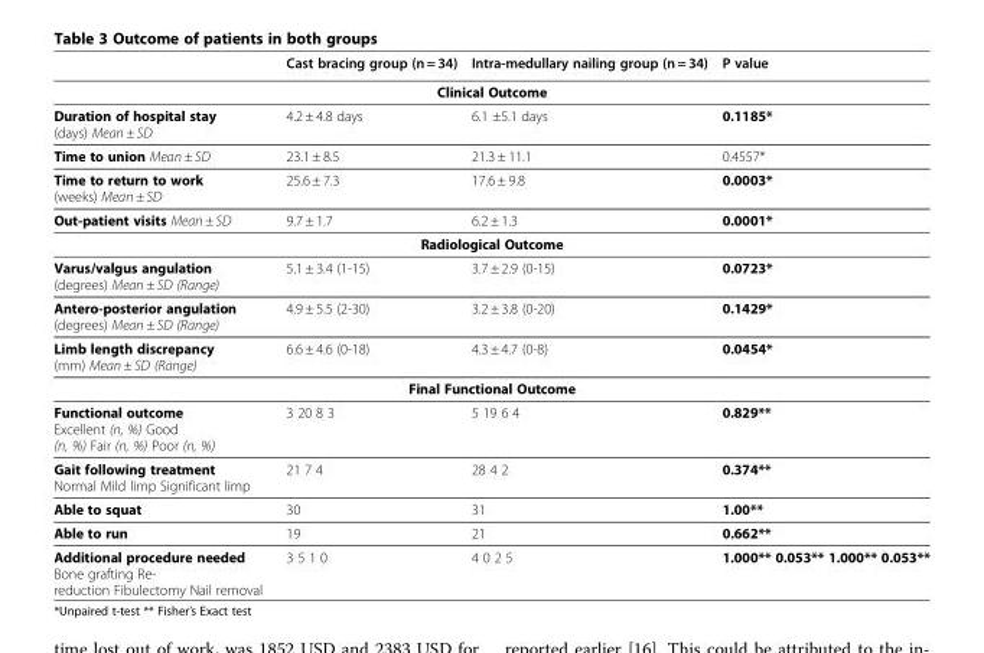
<table><thead><tr><td></td><td>Cast bracing group (n = 34)</td><td>Intra-medullary nailing group (n = 34)</td><td>P value</td></tr></thead><tbody><tr><td colspan="4">Clinical Outcome</td></tr><tr><td>Duration of hospital stay (days) Mean ± SD</td><td>4.2 ± 4.8 days</td><td>6.1 ±5.1 days</td><td>0.1185*</td></tr><tr><td>Time to union Mean ± SD</td><td>23.1 ± 8.5</td><td>21.3 ± 11.1</td><td>0.4557*</td></tr><tr><td>Time to return to work (weeks) Mean ± SD</td><td>25.6 ± 7.3</td><td>17.6 ± 9.8</td><td>0.0003*</td></tr><tr><td>Out-patient visits Mean ± SD</td><td>9.7 ± 1.7</td><td>6.2 ± 1.3</td><td>0.0001*</td></tr><tr><td colspan="4">Radiological Outcome</td></tr><tr><td>Varus/valgus angulation (degrees) Mean ± SD (Range)</td><td>5.1 ± 3.4 (1-15)</td><td>3.7 ± 2.9 (0-15)</td><td>0.0723*</td></tr><tr><td>Antero-posterior angulation (degrees) Mean ± SD (Range)</td><td>4.9 ± 5.5 (2-30)</td><td>3.2 ± 3.8 (0-20)</td><td>0.1429*</td></tr><tr><td>Limb length discrepancy (mm) Mean ± SD (Range)</td><td>6.6 ± 4.6 (0-18)</td><td>4.3 ± 4.7 (0-8)</td><td>0.0454*</td></tr><tr><td colspan="4">Final Functional Outcome</td></tr><tr><td>Functional outcome Excellent (n, %) Good (n, %) Fair (n, %) Poor (n, %)</td><td>3 20 8 3</td><td>5 19 6 4</td><td>0.829**</td></tr><tr><td>Gait following treatment Normal Mild limp Significant limp</td><td>21 7 4</td><td>28 4 2</td><td>0.374**</td></tr><tr><td>Able to squat</td><td>30</td><td>31</td><td>1.00**</td></tr><tr><td>Able to run</td><td>19</td><td>21</td><td>0.662**</td></tr><tr><td>Additional procedure needed Bone grafting Re- reduction Fibulectomy Nail removal</td><td>3 5 1 0</td><td>4 0 2 5</td><td>1.000** 0.053** 1.000** 0.053**</td></tr></tbody></table>